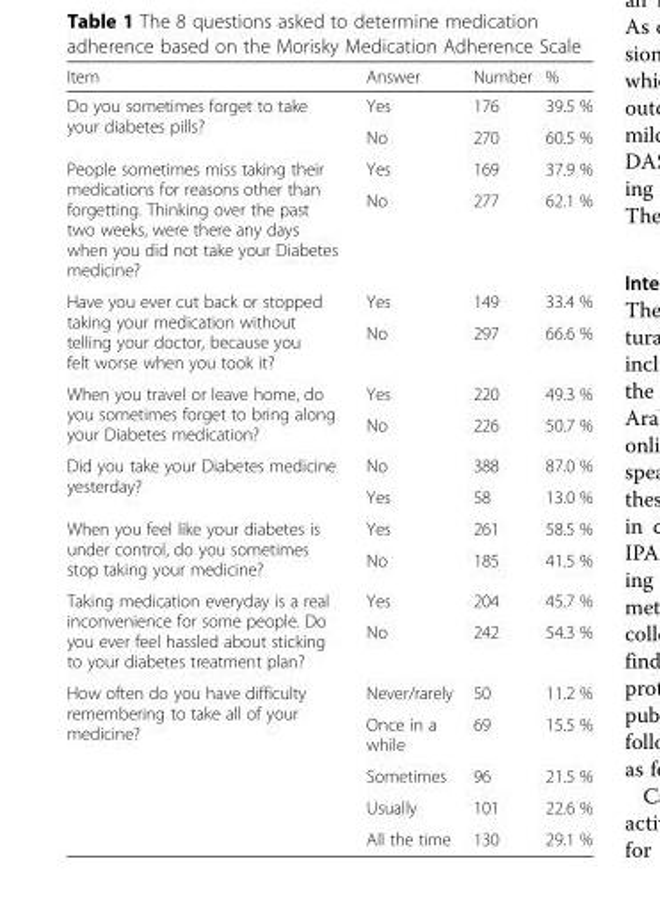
<table><thead><tr><td>Item</td><td>Answer</td><td>Number</td><td>%</td></tr></thead><tbody><tr><td rowspan="2">Do you sometimes forget to take your diabetes pills?</td><td>Yes</td><td>176</td><td>39.5 %</td></tr><tr><td>No</td><td>270</td><td>60.5 %</td></tr><tr><td rowspan="2">People sometimes miss taking their medications for reasons other than forgetting. Thinking over the past two weeks, were there any days when you did not take your Diabetes medicine?</td><td>Yes</td><td>169</td><td>37.9 %</td></tr><tr><td>No</td><td>277</td><td>62.1 %</td></tr><tr><td rowspan="2">Have you ever cut back or stopped taking your medication without telling your doctor, because you felt worse when you took it?</td><td>Yes</td><td>149</td><td>33.4 %</td></tr><tr><td>No</td><td>297</td><td>66.6 %</td></tr><tr><td rowspan="2">When you travel or leave home, do you sometimes forget to bring along your Diabetes medication?</td><td>Yes</td><td>220</td><td>49.3 %</td></tr><tr><td>No</td><td>226</td><td>50.7 %</td></tr><tr><td rowspan="2">Did you take your Diabetes medicine yesterday?</td><td>No</td><td>388</td><td>87.0 %</td></tr><tr><td>Yes</td><td>58</td><td>13.0 %</td></tr><tr><td rowspan="2">When you feel like your diabetes is under control, do you sometimes stop taking your medicine?</td><td>Yes</td><td>261</td><td>58.5 %</td></tr><tr><td>No</td><td>185</td><td>41.5 %</td></tr><tr><td rowspan="2">Taking medication everyday is a real inconvenience for some people. Do you ever feel hassled about sticking to your diabetes treatment plan?</td><td>Yes</td><td>204</td><td>45.7 %</td></tr><tr><td>No</td><td>242</td><td>54.3 %</td></tr><tr><td rowspan="5">How often do you have difficulty remembering to take all of your medicine?</td><td>Never/rarely</td><td>50</td><td>11.2 %</td></tr><tr><td>Once in a while</td><td>69</td><td>15.5 %</td></tr><tr><td>Sometimes</td><td>96</td><td>21.5 %</td></tr><tr><td>Usually</td><td>101</td><td>22.6 %</td></tr><tr><td>All the time</td><td>130</td><td>29.1 %</td></tr></tbody></table>